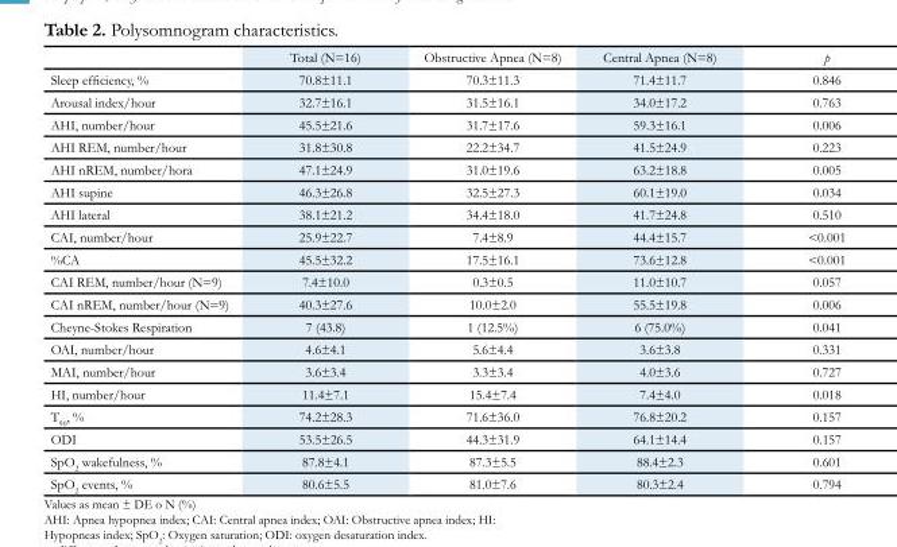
<table><thead><tr><td></td><td>Total (N=16)</td><td>Obstructive Apnea (N=8)</td><td>Central Apnea (N=8)</td><td>p</td></tr></thead><tbody><tr><td>Sleep efficiency, %</td><td>70.8±11.1</td><td>70.3±11.3</td><td>71.4±11.7</td><td>0.846</td></tr><tr><td>Arousal index/hour</td><td>32.7±16.1</td><td>31.5±16.1</td><td>34.0±17.2</td><td>0.763</td></tr><tr><td>AHI, number/hour</td><td>45.5±21.6</td><td>31.7±17.6</td><td>59.3±16.1</td><td>0.006</td></tr><tr><td>AHI REM, number/hour</td><td>31.8±30.8</td><td>22.2±34.7</td><td>41.5±24.9</td><td>0.223</td></tr><tr><td>AHI nREM, number/hora</td><td>47.1±24.9</td><td>31.0±19.6</td><td>63.2±18.8</td><td>0.005</td></tr><tr><td>AHI supine</td><td>46.3±26.8</td><td>32.5±27.3</td><td>60.1±19.0</td><td>0.034</td></tr><tr><td>AHI lateral</td><td>38.1±21.2</td><td>34.4±18.0</td><td>41.7±24.8</td><td>0.510</td></tr><tr><td>CAI, number/hour</td><td>25.9±22.7</td><td>7.4±8.9</td><td>44.4±15.7</td><td>&lt;0.001</td></tr><tr><td>%CA</td><td>45.5±32.2</td><td>17.5±16.1</td><td>73.6±12.8</td><td>&lt;0.001</td></tr><tr><td>CAI REM, number/hour (N=9)</td><td>7.4±10.0</td><td>0.3±0.5</td><td>11.0±10.7</td><td>0.057</td></tr><tr><td>CAI nREM, number/hour (N=9)</td><td>40.3±27.6</td><td>10.0±2.0</td><td>55.5±19.8</td><td>0.006</td></tr><tr><td>Cheyne-Stokes Respiration</td><td>7 (43.8)</td><td>1 (12.5%)</td><td>6 (75.0%)</td><td>0.041</td></tr><tr><td>OAI, number/hour</td><td>4.6±4.1</td><td>5.6±4.4</td><td>3.6±3.8</td><td>0.331</td></tr><tr><td>MAI, number/hour</td><td>3.6±3.4</td><td>3.3±3.4</td><td>4.0±3.6</td><td>0.727</td></tr><tr><td>HI, number/hour</td><td>11.4±7.1</td><td>15.4±7.4</td><td>7.4±4.0</td><td>0.018</td></tr><tr><td>T<sub>90</sub>, %</td><td>74.2±28.3</td><td>71.6±36.0</td><td>76.8±20.2</td><td>0.157</td></tr><tr><td>ODI</td><td>53.5±26.5</td><td>44.3±31.9</td><td>64.1±14.4</td><td>0.157</td></tr><tr><td>SpO<sub>2</sub> wakefulness, %</td><td>87.8±4.1</td><td>87.3±5.5</td><td>88.4±2.3</td><td>0.601</td></tr><tr><td>SpO<sub>2</sub> events, %</td><td>80.6±5.5</td><td>81.0±7.6</td><td>80.3±2.4</td><td>0.794</td></tr></tbody></table>